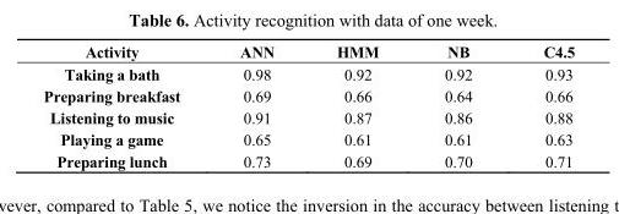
<table><thead><tr><td>Activity</td><td>ANN</td><td>HMM</td><td>NB</td><td>C4.5</td></tr></thead><tbody><tr><td>Taking a bath</td><td>0.98</td><td>0.92</td><td>0.92</td><td>0.93</td></tr><tr><td>Preparing breakfast</td><td>0.69</td><td>0.66</td><td>0.64</td><td>0.66</td></tr><tr><td>Listening to music</td><td>0.91</td><td>0.87</td><td>0.86</td><td>0.88</td></tr><tr><td>Playing a game</td><td>0.65</td><td>0.61</td><td>0.61</td><td>0.63</td></tr><tr><td>Preparing lunch</td><td>0.73</td><td>0.69</td><td>0.70</td><td>0.71</td></tr></tbody></table>